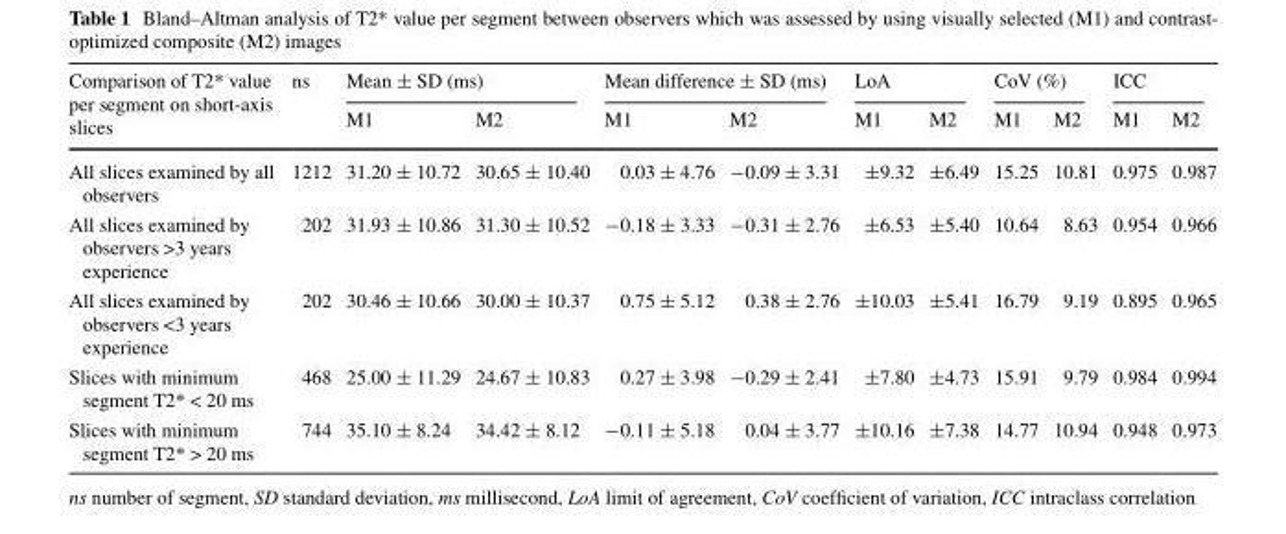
<table><thead><tr><td rowspan="2">Comparison of T2* value per segment on short-axis slices</td><td rowspan="2">ns</td><td colspan="2">Mean ± SD (ms)</td><td colspan="2">Mean difference ± SD (ms)</td><td colspan="2">LoA</td><td colspan="2">CoV (%)</td><td colspan="2">ICC</td></tr><tr><td>M1</td><td>M2</td><td>M1</td><td>M2</td><td>M1</td><td>M2</td><td>M1</td><td>M2</td><td>M1</td><td>M2</td></tr></thead><tbody><tr><td>All slices examined by all observers</td><td>1212</td><td>31.20 ± 10.72</td><td>30.65 ± 10.40</td><td>0.03 ± 4.76</td><td>−0.09 ± 3.31</td><td>±9.32</td><td>±6.49</td><td>15.25</td><td>10.81</td><td>0.975</td><td>0.987</td></tr><tr><td>All slices examined by observers &gt;3 years experience</td><td>202</td><td>31.93 ± 10.86</td><td>31.30 ± 10.52</td><td>−0.18 ± 3.33</td><td>−0.31 ± 2.76</td><td>±6.53</td><td>±5.40</td><td>10.64</td><td>8.63</td><td>0.954</td><td>0.966</td></tr><tr><td>All slices examined by observers &lt;3 years experience</td><td>202</td><td>30.46 ± 10.66</td><td>30.00 ± 10.37</td><td>0.75 ± 5.12</td><td>0.38 ± 2.76</td><td>±10.03</td><td>±5.41</td><td>16.79</td><td>9.19</td><td>0.895</td><td>0.965</td></tr><tr><td>Slices with minimum segment T2* &lt; 20 ms</td><td>468</td><td>25.00 ± 11.29</td><td>24.67 ± 10.83</td><td>0.27 ± 3.98</td><td>−0.29 ± 2.41</td><td>±7.80</td><td>±4.73</td><td>15.91</td><td>9.79</td><td>0.984</td><td>0.994</td></tr><tr><td>Slices with minimum segment T2* &gt; 20 ms</td><td>744</td><td>35.10 ± 8.24</td><td>34.42 ± 8.12</td><td>−0.11 ± 5.18</td><td>0.04 ± 3.77</td><td>±10.16</td><td>±7.38</td><td>14.77</td><td>10.94</td><td>0.948</td><td>0.973</td></tr></tbody></table>